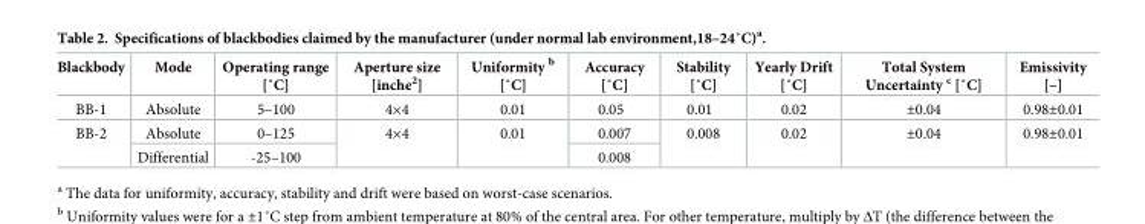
<table><thead><tr><td>Blackbody</td><td>Mode</td><td>Operating range [˚C]</td><td>Aperture size [inche<sup>2</sup>]</td><td>Uniformity b [˚C]</td><td>Accuracy [˚C]</td><td>Stability [˚C]</td><td>Yearly Drift [˚C]</td><td>Total System Uncertainty c [˚C]</td><td>Emissivity [–]</td></tr></thead><tbody><tr><td>BB-1</td><td>Absolute</td><td>5–100</td><td>4×4</td><td>0.01</td><td>0.05</td><td>0.01</td><td>0.02</td><td>±0.04</td><td>0.98±0.01</td></tr><tr><td rowspan="2">BB-2</td><td>Absolute</td><td>0–125</td><td rowspan="2">4×4</td><td rowspan="2">0.01</td><td>0.007</td><td rowspan="2">0.008</td><td rowspan="2">0.02</td><td rowspan="2">±0.04</td><td rowspan="2">0.98±0.01</td></tr><tr><td>Differential</td><td>-25–100</td><td>0.008</td></tr></tbody></table>